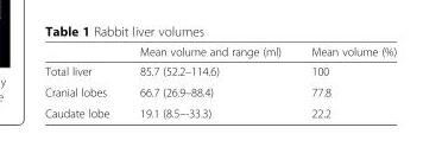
<table><thead><tr><td></td><td>Mean volume and range (ml)</td><td>Mean volume (%)</td></tr></thead><tbody><tr><td>Total liver</td><td>85.7 (52.2–114.6)</td><td>100</td></tr><tr><td>Cranial lobes</td><td>66.7 (26.9–88.4)</td><td>77.8</td></tr><tr><td>Caudate lobe</td><td>19.1 (8.5–-33.3)</td><td>22.2</td></tr></tbody></table>